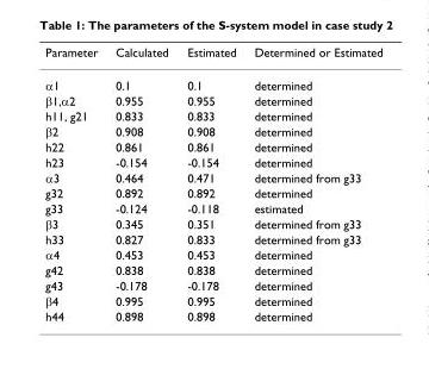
<table><thead><tr><td>Parameter</td><td>Calculated</td><td>Estimated</td><td>Determined or Estimated</td></tr></thead><tbody><tr><td>α1</td><td>0.1</td><td>0.1</td><td>determined</td></tr><tr><td>β1,α2</td><td>0.955</td><td>0.955</td><td>determined</td></tr><tr><td>h11, g21</td><td>0.833</td><td>0.833</td><td>determined</td></tr><tr><td>β2</td><td>0.908</td><td>0.908</td><td>determined</td></tr><tr><td>h22</td><td>0.861</td><td>0.861</td><td>determined</td></tr><tr><td>h23</td><td>-0.154</td><td>-0.154</td><td>determined</td></tr><tr><td>α3</td><td>0.464</td><td>0.471</td><td>determined from g33</td></tr><tr><td>g32</td><td>0.892</td><td>0.892</td><td>determined</td></tr><tr><td>g33</td><td>-0.124</td><td>-0.118</td><td>estimated</td></tr><tr><td>β3</td><td>0.345</td><td>0.351</td><td>determined from g33</td></tr><tr><td>h33</td><td>0.827</td><td>0.833</td><td>determined from g33</td></tr><tr><td>α4</td><td>0.453</td><td>0.453</td><td>determined</td></tr><tr><td>g42</td><td>0.838</td><td>0.838</td><td>determined</td></tr><tr><td>g43</td><td>-0.178</td><td>-0.178</td><td>determined</td></tr><tr><td>β4</td><td>0.995</td><td>0.995</td><td>determined</td></tr><tr><td>h44</td><td>0.898</td><td>0.898</td><td>determined</td></tr></tbody></table>